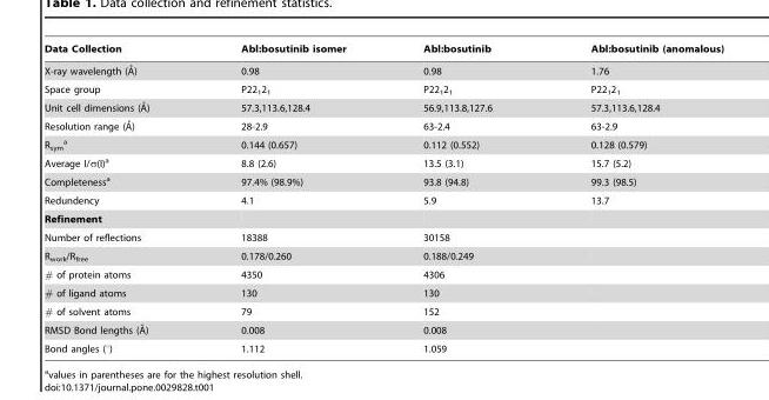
<table><thead><tr><td>Data Collection</td><td>Abl:bosutinib isomer</td><td>Abl:bosutinib</td><td>Abl:bosutinib (anomalous)</td></tr></thead><tbody><tr><td>X-ray wavelength (A˚)</td><td>0.98</td><td>0.98</td><td>1.76</td></tr><tr><td>Space group</td><td>P22<sub>1</sub>2<sub>1</sub></td><td>P22<sub>1</sub>2<sub>1</sub></td><td>P22<sub>1</sub>2<sub>1</sub></td></tr><tr><td>Unit cell dimensions (A˚)</td><td>57.3,113.6,128.4</td><td>56.9,113.8,127.6</td><td>57.3,113.6,128.4</td></tr><tr><td>Resolution range (A˚)</td><td>28-2.9</td><td>63-2.4</td><td>63-2.9</td></tr><tr><td>R<sub>sym</sub> a</td><td>0.144 (0.657)</td><td>0.112 (0.552)</td><td>0.128 (0.579)</td></tr><tr><td>Average I/σ(I)<sup>a</sup></td><td>8.8 (2.6)</td><td>13.5 (3.1)</td><td>15.7 (5.2)</td></tr><tr><td>Completeness<sup>a</sup></td><td>97.4% (98.9%)</td><td>93.8 (94.8)</td><td>99.3 (98.5)</td></tr><tr><td>Redundency</td><td>4.1</td><td>5.9</td><td>13.7</td></tr><tr><td colspan="4">Refinement</td></tr><tr><td>Number of reflections</td><td>18388</td><td>30158</td><td></td></tr><tr><td>R<sub>work</sub>/R<sub>free</sub></td><td>0.178/0.260</td><td>0.188/0.249</td><td></td></tr><tr><td># of protein atoms</td><td>4350</td><td>4306</td><td></td></tr><tr><td># of ligand atoms</td><td>130</td><td>130</td><td></td></tr><tr><td># of solvent atoms</td><td>79</td><td>152</td><td></td></tr><tr><td>RMSD Bond lengths (A˚)</td><td>0.008</td><td>0.008</td><td></td></tr><tr><td>Bond angles (°)</td><td>1.112</td><td>1.059</td><td></td></tr></tbody></table>